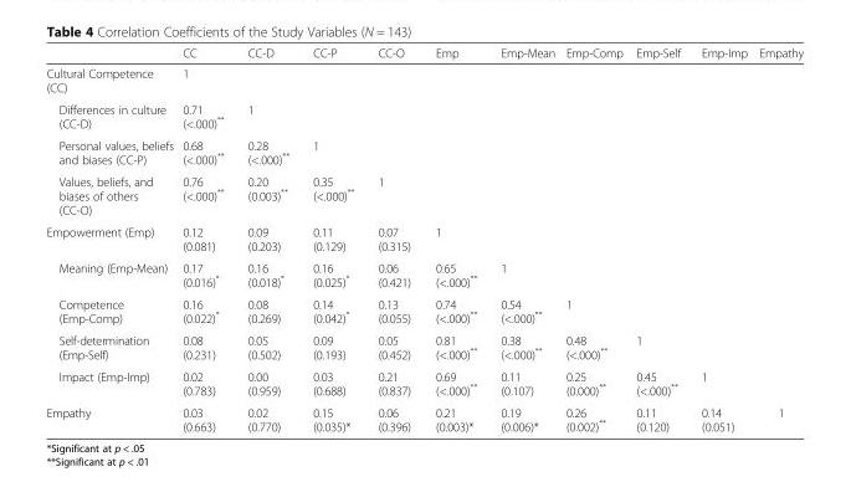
<table><thead><tr><td></td><td>CC</td><td>CC-D</td><td>CC-P</td><td>CC-O</td><td>Emp</td><td>Emp-Mean</td><td>Emp-Comp</td><td>Emp-Self</td><td>Emp-Imp</td><td>Empathy</td></tr></thead><tbody><tr><td>Cultural Competence (CC)</td><td>1</td><td></td><td></td><td></td><td></td><td></td><td></td><td></td><td></td><td></td></tr><tr><td>Differences in culture (CC-D)</td><td>0.71 (&lt;.000)**</td><td>1</td><td></td><td></td><td></td><td></td><td></td><td></td><td></td><td></td></tr><tr><td>Personal values, beliefs and biases (CC-P)</td><td>0.68 (&lt;.000)**</td><td>0.28 (&lt;.000)**</td><td>1</td><td></td><td></td><td></td><td></td><td></td><td></td><td></td></tr><tr><td>Values, beliefs, and biases of others (CC-O)</td><td>0.76 (&lt;.000)**</td><td>0.20 (0.003)**</td><td>0.35 (&lt;.000)**</td><td>1</td><td></td><td></td><td></td><td></td><td></td><td></td></tr><tr><td>Empowerment (Emp)</td><td>0.12 (0.081)</td><td>0.09 (0.203)</td><td>0.11 (0.129)</td><td>0.07 (0.315)</td><td>1</td><td></td><td></td><td></td><td></td><td></td></tr><tr><td>Meaning (Emp-Mean)</td><td>0.17 (0.016)*</td><td>0.16 (0.018)*</td><td>0.16 (0.025)*</td><td>0.06 (0.421)</td><td>0.65 (&lt;.000)**</td><td>1</td><td></td><td></td><td></td><td></td></tr><tr><td>Competence (Emp-Comp)</td><td>0.16 (0.022)*</td><td>0.08 (0.269)</td><td>0.14 (0.042)*</td><td>0.13 (0.055)</td><td>0.74 (&lt;.000)**</td><td>0.54 (&lt;.000)**</td><td>1</td><td></td><td></td><td></td></tr><tr><td>Self-determination (Emp-Self)</td><td>0.08 (0.231)</td><td>0.05 (0.502)</td><td>0.09 (0.193)</td><td>0.05 (0.452)</td><td>0.81 (&lt;.000)**</td><td>0.38 (&lt;.000)**</td><td>0.48 (&lt;.000)**</td><td>1</td><td></td><td></td></tr><tr><td>Impact (Emp-Imp)</td><td>0.02 (0.783)</td><td>0.00 (0.959)</td><td>0.03 (0.688)</td><td>0.21 (0.837)</td><td>0.69 (&lt;.000)**</td><td>0.11 (0.107)</td><td>0.25 (0.000)**</td><td>0.45 (&lt;.000)**</td><td>1</td><td></td></tr><tr><td>Empathy</td><td>0.03 (0.663)</td><td>0.02 (0.770)</td><td>0.15 (0.035)*</td><td>0.06 (0.396)</td><td>0.21 (0.003)*</td><td>0.19 (0.006)*</td><td>0.26 (0.002)**</td><td>0.11 (0.120)</td><td>0.14 (0.051)</td><td>1</td></tr></tbody></table>